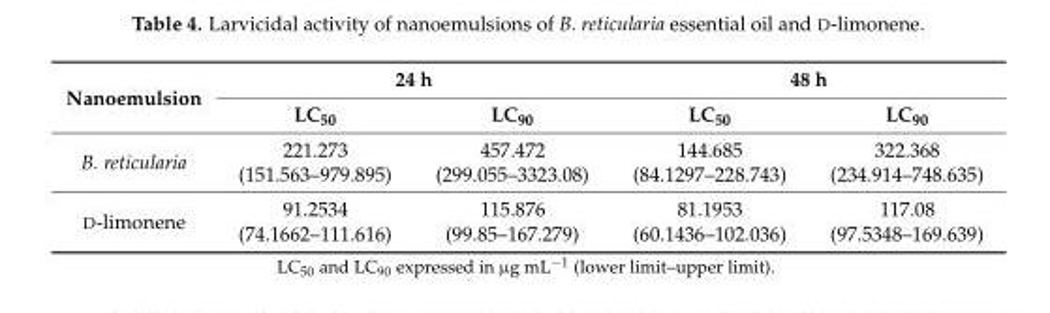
<table><thead><tr><td rowspan="2">Nanoemulsion</td><td colspan="2">24 h</td><td colspan="2">48 h</td></tr><tr><td>LC<sub>50</sub></td><td>LC<sub>90</sub></td><td>LC<sub>50</sub></td><td>LC<sub>90</sub></td></tr></thead><tbody><tr><td>B. reticularia</td><td>221.273 (151.563–979.895)</td><td>457.472 (299.055–3323.08)</td><td>144.685 (84.1297–228.743)</td><td>322.368 (234.914–748.635)</td></tr><tr><td>D-limonene</td><td>91.2534 (74.1662–111.616)</td><td>115.876 (99.85–167.279)</td><td>81.1953 (60.1436–102.036)</td><td>117.08 (97.5348–169.639)</td></tr></tbody></table>